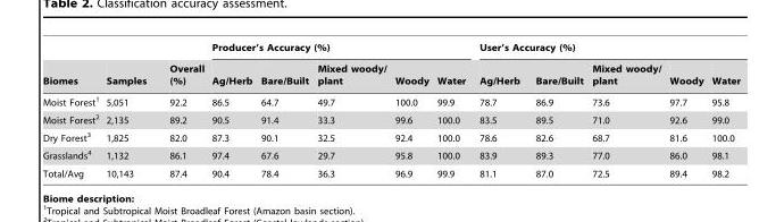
<table><thead><tr><td rowspan="2">Biomes</td><td rowspan="2">Samples</td><td rowspan="2">Overall (%)</td><td colspan="5">Producer’s Accuracy (%)</td><td colspan="5">User’s Accuracy (%)</td></tr><tr><td>Ag/Herb</td><td>Bare/Built</td><td>Mixed woody/ plant</td><td>Woody</td><td>Water</td><td>Ag/Herb</td><td>Bare/Built</td><td>Mixed woody/ plant</td><td>Woody</td><td>Water</td></tr></thead><tbody><tr><td>Moist Forest<sup>1</sup></td><td>5,051</td><td>92.2</td><td>86.5</td><td>64.7</td><td>49.7</td><td>100.0</td><td>99.9</td><td>78.7</td><td>86.9</td><td>73.6</td><td>97.7</td><td>95.8</td></tr><tr><td>Moist Forest<sup>2</sup></td><td>2,135</td><td>89.2</td><td>90.5</td><td>91.4</td><td>33.3</td><td>99.6</td><td>100.0</td><td>83.5</td><td>89.5</td><td>71.0</td><td>92.6</td><td>99.0</td></tr><tr><td>Dry Forest<sup>3</sup></td><td>1,825</td><td>82.0</td><td>87.3</td><td>90.1</td><td>32.5</td><td>92.4</td><td>100.0</td><td>78.6</td><td>82.6</td><td>68.7</td><td>81.6</td><td>100.0</td></tr><tr><td>Grasslands<sup>4</sup></td><td>1,132</td><td>86.1</td><td>97.4</td><td>67.6</td><td>29.7</td><td>95.8</td><td>100.0</td><td>83.9</td><td>89.3</td><td>77.0</td><td>86.0</td><td>98.1</td></tr><tr><td>Total/Avg</td><td>10,143</td><td>87.4</td><td>90.4</td><td>78.4</td><td>36.3</td><td>96.9</td><td>99.9</td><td>81.1</td><td>87.0</td><td>72.5</td><td>89.4</td><td>98.2</td></tr></tbody></table>